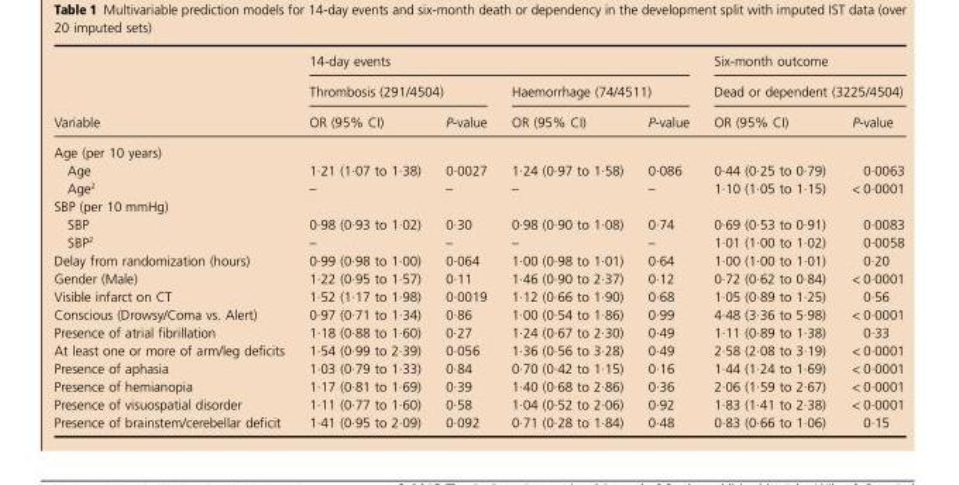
<table><thead><tr><td rowspan="3">Variable</td><td colspan="4">14-day events</td><td rowspan="2" colspan="2">Six-month outcome Dead or dependent (3225/4504)</td></tr><tr><td colspan="2">Thrombosis (291/4504)</td><td colspan="2">Haemorrhage (74/4511)</td></tr><tr><td>OR (95% CI)</td><td>P-value</td><td>OR (95% CI)</td><td>P-value</td><td>OR (95% CI)</td><td>P-value</td></tr></thead><tbody><tr><td colspan="7">Age (per 10 years)</td></tr><tr><td>Age</td><td>1·21 (1·07 to 1·38)</td><td>0·0027</td><td>1·24 (0·97 to 1·58)</td><td>0·086</td><td>0·44 (0·25 to 0·79)</td><td>0·0063</td></tr><tr><td>Age<sup>2</sup></td><td>–</td><td>–</td><td>–</td><td>–</td><td>1·10 (1·05 to 1·15)</td><td>&lt; 0·0001</td></tr><tr><td colspan="7">SBP (per 10 mmHg)</td></tr><tr><td>SBP</td><td>0·98 (0·93 to 1·02)</td><td>0·30</td><td>0·98 (0·90 to 1·08)</td><td>0·74</td><td>0·69 (0·53 to 0·91)</td><td>0·0083</td></tr><tr><td>SBP<sup>2</sup></td><td>–</td><td>–</td><td>–</td><td>–</td><td>1·01 (1·00 to 1·02)</td><td>0·0058</td></tr><tr><td>Delay from randomization (hours)</td><td>0·99 (0·98 to 1·00)</td><td>0·064</td><td>1·00 (0·98 to 1·01)</td><td>0·64</td><td>1·00 (1·00 to 1·01)</td><td>0·20</td></tr><tr><td>Gender (Male)</td><td>1·22 (0·95 to 1·57)</td><td>0·11</td><td>1·46 (0·90 to 2·37)</td><td>0·12</td><td>0·72 (0·62 to 0·84)</td><td>&lt; 0·0001</td></tr><tr><td>Visible infarct on CT</td><td>1·52 (1·17 to 1·98)</td><td>0·0019</td><td>1·12 (0·66 to 1·90)</td><td>0·68</td><td>1·05 (0·89 to 1·25)</td><td>0·56</td></tr><tr><td>Conscious (Drowsy/Coma vs. Alert)</td><td>0·97 (0·71 to 1·34)</td><td>0·86</td><td>1·00 (0·54 to 1·86)</td><td>0·99</td><td>4·48 (3·36 to 5·98)</td><td>&lt; 0·0001</td></tr><tr><td>Presence of atrial fibrillation</td><td>1·18 (0·88 to 1·60)</td><td>0·27</td><td>1·24 (0·67 to 2·30)</td><td>0·49</td><td>1·11 (0·89 to 1·38)</td><td>0·33</td></tr><tr><td>At least one or more of arm/leg deficits</td><td>1·54 (0·99 to 2·39)</td><td>0·056</td><td>1·36 (0·56 to 3·28)</td><td>0·49</td><td>2·58 (2·08 to 3·19)</td><td>&lt; 0·0001</td></tr><tr><td>Presence of aphasia</td><td>1·03 (0·79 to 1·33)</td><td>0·84</td><td>0·70 (0·42 to 1·15)</td><td>0·16</td><td>1·44 (1·24 to 1·69)</td><td>&lt; 0·0001</td></tr><tr><td>Presence of hemianopia</td><td>1·17 (0·81 to 1·69)</td><td>0·39</td><td>1·40 (0·68 to 2·86)</td><td>0·36</td><td>2·06 (1·59 to 2·67)</td><td>&lt; 0·0001</td></tr><tr><td>Presence of visuospatial disorder</td><td>1·11 (0·77 to 1·60)</td><td>0·58</td><td>1·04 (0·52 to 2·06)</td><td>0·92</td><td>1·83 (1·41 to 2·38)</td><td>&lt; 0·0001</td></tr><tr><td>Presence of brainstem/cerebellar deficit</td><td>1·41 (0·95 to 2·09)</td><td>0·092</td><td>0·71 (0·28 to 1·84)</td><td>0·48</td><td>0·83 (0·66 to 1·06)</td><td>0·15</td></tr></tbody></table>